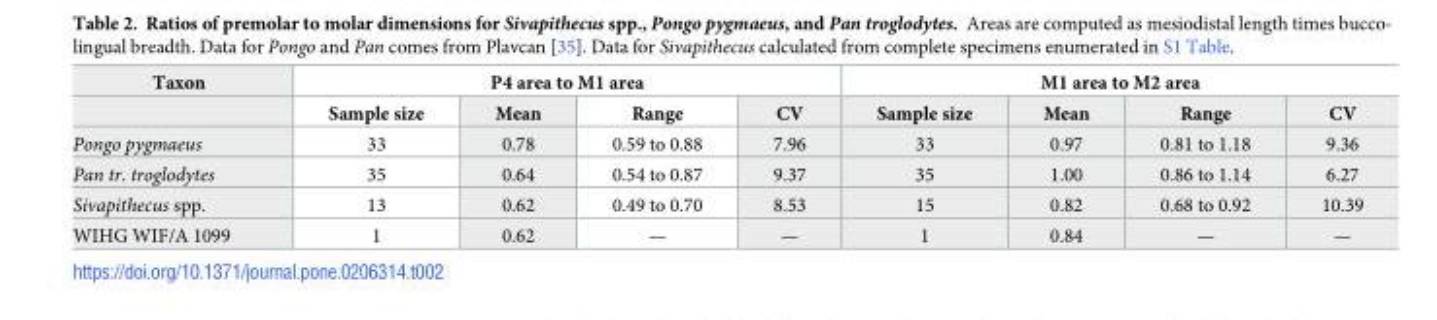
<table><thead><tr><td rowspan="2">Taxon</td><td colspan="4">P4 area to M1 area</td><td colspan="4">M1 area to M2 area</td></tr><tr><td>Sample size</td><td>Mean</td><td>Range</td><td>CV</td><td>Sample size</td><td>Mean</td><td>Range</td><td>CV</td></tr></thead><tbody><tr><td>Pongo pygmaeus</td><td>33</td><td>0.78</td><td>0.59 to 0.88</td><td>7.96</td><td>33</td><td>0.97</td><td>0.81 to 1.18</td><td>9.36</td></tr><tr><td>Pan tr. troglodytes</td><td>35</td><td>0.64</td><td>0.54 to 0.87</td><td>9.37</td><td>35</td><td>1.00</td><td>0.86 to 1.14</td><td>6.27</td></tr><tr><td>Sivapithecus spp.</td><td>13</td><td>0.62</td><td>0.49 to 0.70</td><td>8.53</td><td>15</td><td>0.82</td><td>0.68 to 0.92</td><td>10.39</td></tr><tr><td>WIHG WIF/A 1099</td><td>1</td><td>0.62</td><td>—</td><td>—</td><td>1</td><td>0.84</td><td>—</td><td>—</td></tr></tbody></table>